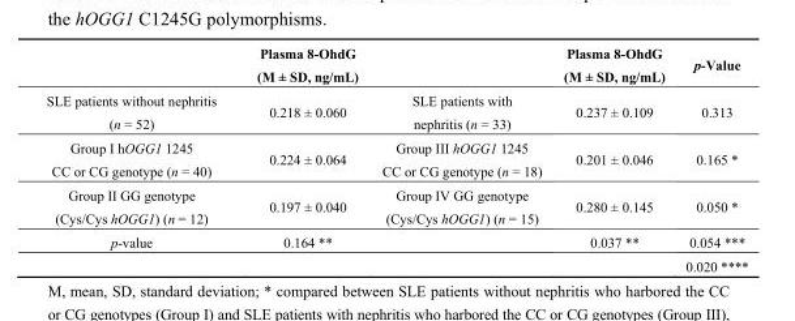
<table><thead><tr><td></td><td>Plasma 8-OhdG (M ± SD, ng/mL)</td><td></td><td>Plasma 8-OhdG (M ± SD, ng/mL)</td><td>p-Value</td></tr></thead><tbody><tr><td>SLE patients without nephritis (n = 52)</td><td>0.218 ± 0.060</td><td>SLE patients with nephritis (n = 33)</td><td>0.237 ± 0.109</td><td>0.313</td></tr><tr><td>Group I hOGG1 1245 CC or CG genotype (n = 40)</td><td>0.224 ± 0.064</td><td>Group III hOGG1 1245 CC or CG genotype (n = 18)</td><td>0.201 ± 0.046</td><td>0.165 *</td></tr><tr><td>Group II GG genotype (Cys/Cys hOGG1) (n = 12)</td><td>0.197 ± 0.040</td><td>Group IV GG genotype (Cys/Cys hOGG1) (n = 15)</td><td>0.280 ± 0.145</td><td>0.050 *</td></tr><tr><td rowspan="2">p-value</td><td>0.164 **</td><td></td><td>0.037 **</td><td>0.054 ***</td></tr><tr><td></td><td></td><td></td><td>0.020 ****</td></tr></tbody></table>